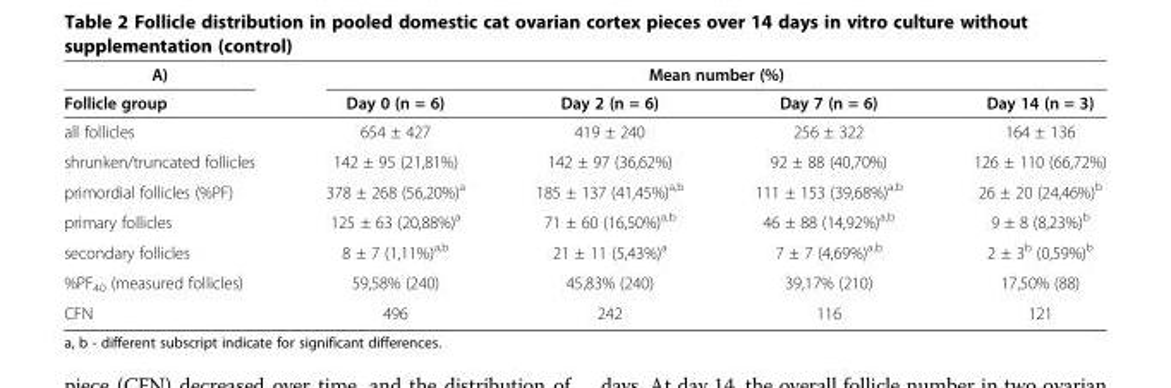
<table><thead><tr><td rowspan="2">A) Follicle group</td><td colspan="4">Mean number (%)</td></tr><tr><td>Day 0 (n = 6)</td><td>Day 2 (n = 6)</td><td>Day 7 (n = 6)</td><td>Day 14 (n = 3)</td></tr></thead><tbody><tr><td>all follicles</td><td>654 ± 427</td><td>419 ± 240</td><td>256 ± 322</td><td>164 ± 136</td></tr><tr><td>shrunken/truncated follicles</td><td>142 ± 95 (21,81%)</td><td>142 ± 97 (36,62%)</td><td>92 ± 88 (40,70%)</td><td>126 ± 110 (66,72%)</td></tr><tr><td>primordial follicles (%PF)</td><td>378 ± 268 (56,20%)<sup>a</sup></td><td>185 ± 137 (41,45%)<sup>a,b</sup></td><td>111 ± 153 (39,68%)<sup>a,b</sup></td><td>26 ± 20 (24,46%)<sup>b</sup></td></tr><tr><td>primary follicles</td><td>125 ± 63 (20,88%)<sup>a</sup></td><td>71 ± 60 (16,50%)<sup>a,b</sup></td><td>46 ± 88 (14,92%)<sup>a,b</sup></td><td>9 ± 8 (8,23%)<sup>b</sup></td></tr><tr><td>secondary follicles</td><td>8 ± 7 (1,11%)<sup>a,b</sup></td><td>21 ± 11 (5,43%)<sup>a</sup></td><td>7 ± 7 (4,69%)<sup>a,b</sup></td><td>2 ± 3<sup>b</sup> (0,59%)<sup>b</sup></td></tr><tr><td>%PF<sub>40</sub> (measured follicles)</td><td>59,58% (240)</td><td>45,83% (240)</td><td>39,17% (210)</td><td>17,50% (88)</td></tr><tr><td>CFN</td><td>496</td><td>242</td><td>116</td><td>121</td></tr></tbody></table>